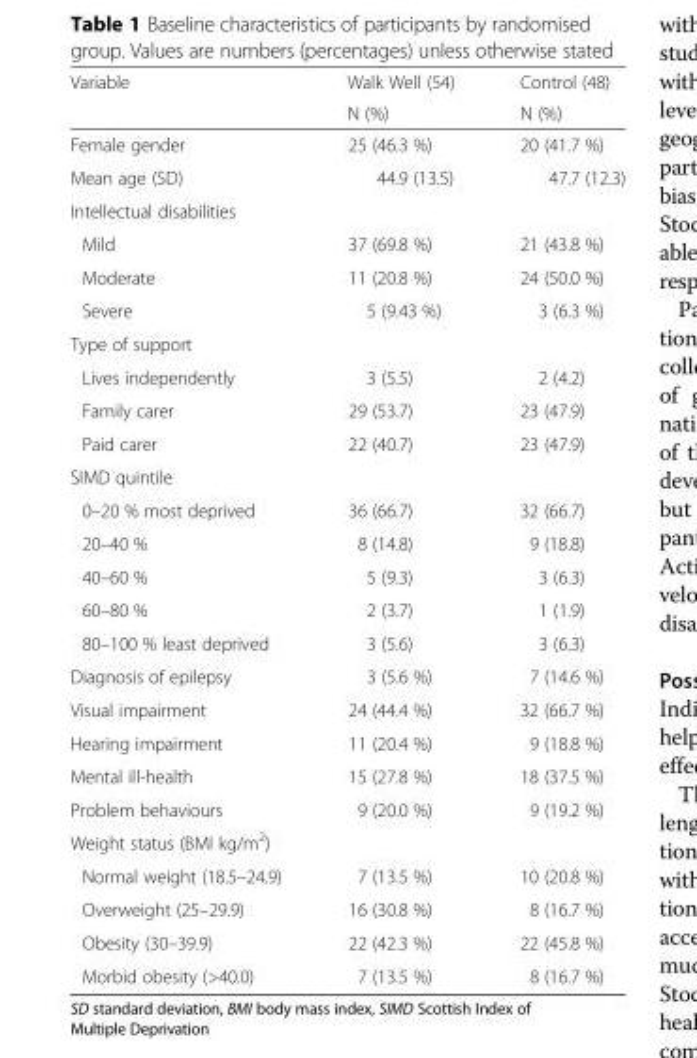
<table><thead><tr><td rowspan="2">Variable</td><td rowspan="2">Walk Well (54) N (%)</td><td rowspan="2">Control (48) N (%)</td></tr><tr></tr></thead><tbody><tr><td>Female gender</td><td>25 (46.3 %)</td><td>20 (41.7 %)</td></tr><tr><td>Mean age (SD)</td><td>44.9 (13.5)</td><td>47.7 (12.3)</td></tr><tr><td colspan="3">Intellectual disabilities</td></tr><tr><td>Mild</td><td>37 (69.8 %)</td><td>21 (43.8 %)</td></tr><tr><td>Moderate</td><td>11 (20.8 %)</td><td>24 (50.0 %)</td></tr><tr><td>Severe</td><td>5 (9.43 %)</td><td>3 (6.3 %)</td></tr><tr><td colspan="3">Type of support</td></tr><tr><td>Lives independently</td><td>3 (5.5)</td><td>2 (4.2)</td></tr><tr><td>Family carer</td><td>29 (53.7)</td><td>23 (47.9)</td></tr><tr><td>Paid carer</td><td>22 (40.7)</td><td>23 (47.9)</td></tr><tr><td colspan="3">SIMD quintile</td></tr><tr><td>0–20 % most deprived</td><td>36 (66.7)</td><td>32 (66.7)</td></tr><tr><td>20–40 %</td><td>8 (14.8)</td><td>9 (18.8)</td></tr><tr><td>40–60 %</td><td>5 (9.3)</td><td>3 (6.3)</td></tr><tr><td>60–80 %</td><td>2 (3.7)</td><td>1 (1.9)</td></tr><tr><td>80–100 % least deprived</td><td>3 (5.6)</td><td>3 (6.3)</td></tr><tr><td>Diagnosis of epilepsy</td><td>3 (5.6 %)</td><td>7 (14.6 %)</td></tr><tr><td>Visual impairment</td><td>24 (44.4 %)</td><td>32 (66.7 %)</td></tr><tr><td>Hearing impairment</td><td>11 (20.4 %)</td><td>9 (18.8 %)</td></tr><tr><td>Mental ill-health</td><td>15 (27.8 %)</td><td>18 (37.5 %)</td></tr><tr><td>Problem behaviours</td><td>9 (20.0 %)</td><td>9 (19.2 %)</td></tr><tr><td colspan="3">Weight status (BMI kg/m<sup>2</sup>)</td></tr><tr><td>Normal weight (18.5–24.9)</td><td>7 (13.5 %)</td><td>10 (20.8 %)</td></tr><tr><td>Overweight (25–29.9)</td><td>16 (30.8 %)</td><td>8 (16.7 %)</td></tr><tr><td>Obesity (30–39.9)</td><td>22 (42.3 %)</td><td>22 (45.8 %)</td></tr><tr><td>Morbid obesity (&gt;40.0)</td><td>7 (13.5 %)</td><td>8 (16.7 %)</td></tr></tbody></table>